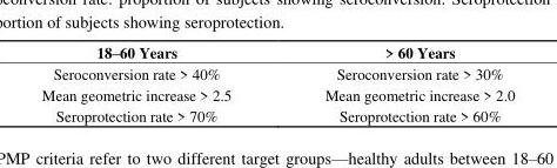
<table><thead><tr><td>18–60 Years</td><td>&gt; 60 Years</td></tr></thead><tbody><tr><td>Seroconversion rate &gt; 40%</td><td>Seroconversion rate &gt; 30%</td></tr><tr><td>Mean geometric increase &gt; 2.5</td><td>Mean geometric increase &gt; 2.0</td></tr><tr><td>Seroprotection rate &gt; 70%</td><td>Seroprotection rate &gt; 60%</td></tr></tbody></table>